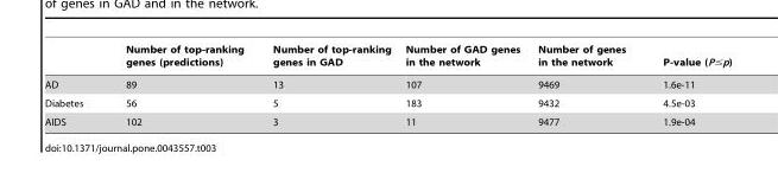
<table><thead><tr><td></td><td>Number of top-ranking genes (predictions)</td><td>Number of top-ranking genes in GAD</td><td>Number of GAD genes in the network</td><td>Number of genes in the network</td><td>P-value (P≤p)</td></tr></thead><tbody><tr><td>AD</td><td>89</td><td>13</td><td>107</td><td>9469</td><td>1.6e-11</td></tr><tr><td>Diabetes</td><td>56</td><td>5</td><td>183</td><td>9432</td><td>4.5e-03</td></tr><tr><td>AIDS</td><td>102</td><td>3</td><td>11</td><td>9477</td><td>1.9e-04</td></tr></tbody></table>